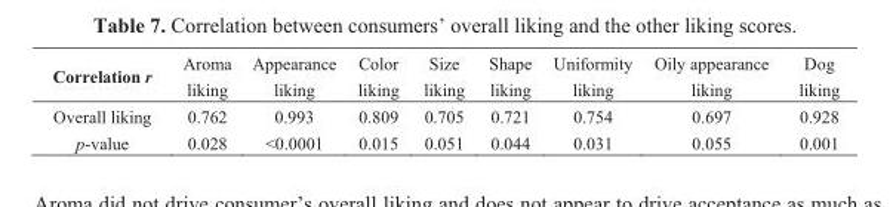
<table><thead><tr><td>Correlation r</td><td>Aroma liking</td><td>Appearance liking</td><td>Color liking</td><td>Size liking</td><td>Shape liking</td><td>Uniformity liking</td><td>Oily appearance liking</td><td>Dog liking</td></tr></thead><tbody><tr><td>Overall liking</td><td>0.762</td><td>0.993</td><td>0.809</td><td>0.705</td><td>0.721</td><td>0.754</td><td>0.697</td><td>0.928</td></tr><tr><td>p-value</td><td>0.028</td><td>&lt;0.0001</td><td>0.015</td><td>0.051</td><td>0.044</td><td>0.031</td><td>0.055</td><td>0.001</td></tr></tbody></table>